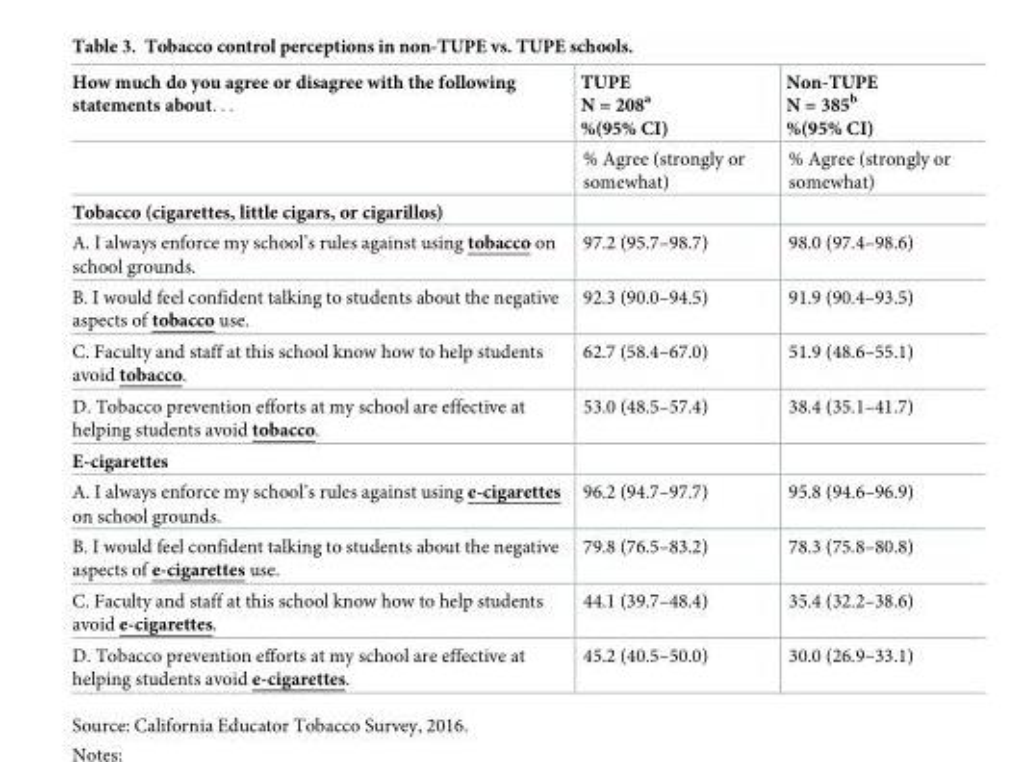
<table><thead><tr><td>How much do you agree or disagree with the following statements about. . .</td><td>TUPE N = 208<sup>a</sup> %(95% CI)</td><td>Non-TUPE N = 385<sup>b</sup> %(95% CI)</td></tr></thead><tbody><tr><td></td><td>% Agree (strongly or somewhat)</td><td>% Agree (strongly or somewhat)</td></tr><tr><td colspan="3">Tobacco (cigarettes, little cigars, or cigarillos)</td></tr><tr><td>A. I always enforce my school’s rules against using tobacco on school grounds.</td><td>97.2 (95.7–98.7)</td><td>98.0 (97.4–98.6)</td></tr><tr><td>B. I would feel confident talking to students about the negative aspects of tobacco use.</td><td>92.3 (90.0–94.5)</td><td>91.9 (90.4–93.5)</td></tr><tr><td>C. Faculty and staff at this school know how to help students avoid tobacco.</td><td>62.7 (58.4–67.0)</td><td>51.9 (48.6–55.1)</td></tr><tr><td>D. Tobacco prevention efforts at my school are effective at helping students avoid tobacco.</td><td>53.0 (48.5–57.4)</td><td>38.4 (35.1–41.7)</td></tr><tr><td colspan="3">E-cigarettes</td></tr><tr><td>A. I always enforce my school’s rules against using e-cigarettes on school grounds.</td><td>96.2 (94.7–97.7)</td><td>95.8 (94.6–96.9)</td></tr><tr><td>B. I would feel confident talking to students about the negative aspects of e-cigarettes use.</td><td>79.8 (76.5–83.2)</td><td>78.3 (75.8–80.8)</td></tr><tr><td>C. Faculty and staff at this school know how to help students avoid e-cigarettes.</td><td>44.1 (39.7–48.4)</td><td>35.4 (32.2–38.6)</td></tr><tr><td>D. Tobacco prevention efforts at my school are effective at helping students avoid e-cigarettes.</td><td>45.2 (40.5–50.0)</td><td>30.0 (26.9–33.1)</td></tr></tbody></table>